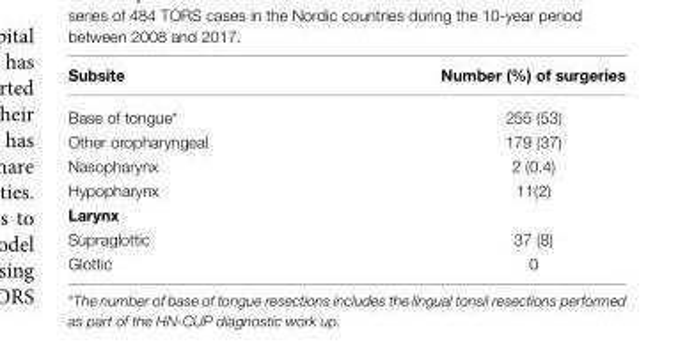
<table><thead><tr><td>Subsite</td><td>Number (%) of surgeries</td></tr></thead><tbody><tr><td>Base of tongue*</td><td>255 (53)</td></tr><tr><td>Other oropharyngeal</td><td>179 (37)</td></tr><tr><td>Nasopharynx</td><td>2 (0.4)</td></tr><tr><td>Hypopharynx</td><td>11(2)</td></tr><tr><td colspan="2">Larynx</td></tr><tr><td>Supraglottic</td><td>37 (8)</td></tr><tr><td>Glottic</td><td>0</td></tr></tbody></table>